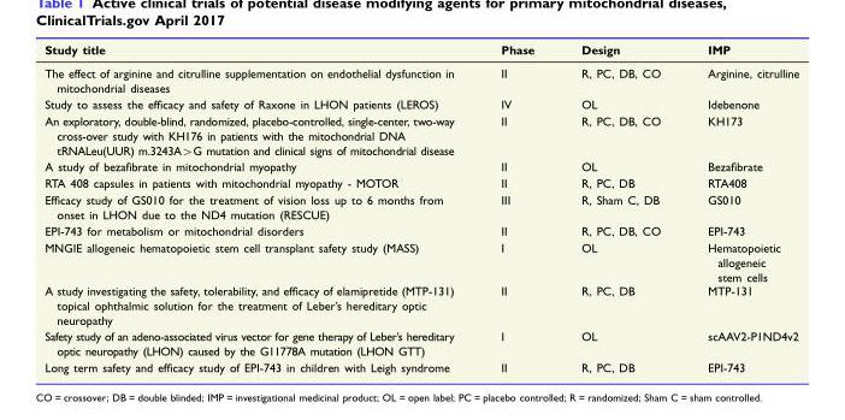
<table><thead><tr><td>Study title</td><td>Phase</td><td>Design</td><td>IMP</td></tr></thead><tbody><tr><td>The effect of arginine and citrulline supplementation on endothelial dysfunction in mitochondrial diseases</td><td>II</td><td>R, PC, DB, CO</td><td>Arginine, citrulline</td></tr><tr><td>Study to assess the efficacy and safety of Raxone in LHON patients (LEROS)</td><td>IV</td><td>OL</td><td>Idebenone</td></tr><tr><td>An exploratory, double-blind, randomized, placebo-controlled, single-center, two-way cross-over study with KH176 in patients with the mitochondrial DNA tRNALeu(UUR) m.3243A&gt;G mutation and clinical signs of mitochondrial disease</td><td>II</td><td>R, PC, DB, CO</td><td>KH173</td></tr><tr><td>A study of bezafibrate in mitochondrial myopathy</td><td>II</td><td>OL</td><td>Bezafibrate</td></tr><tr><td>RTA 408 capsules in patients with mitochondrial myopathy - MOTOR</td><td>II</td><td>R, PC, DB</td><td>RTA408</td></tr><tr><td>Efficacy study of GS010 for the treatment of vision loss up to 6 months from onset in LHON due to the ND4 mutation (RESCUE)</td><td>III</td><td>R, Sham C, DB</td><td>GS010</td></tr><tr><td>EPI-743 for metabolism or mitochondrial disorders</td><td>II</td><td>R, PC, DB, CO</td><td>EPI-743</td></tr><tr><td>MNGIE allogeneic hematopoietic stem cell transplant safety study (MASS)</td><td>I</td><td>OL</td><td>Hematopoietic allogeneic stem cells</td></tr><tr><td>A study investigating the safety, tolerability, and efficacy of elamipretide (MTP-131) topical ophthalmic solution for the treatment of Leber’s hereditary optic neuropathy</td><td>II</td><td>R, PC, DB</td><td>MTP-131</td></tr><tr><td>Safety study of an adeno-associated virus vector for gene therapy of Leber’s hereditary optic neuropathy (LHON) caused by the G11778A mutation (LHON GTT)</td><td>I</td><td>OL</td><td>scAAV2-P1ND4v2</td></tr><tr><td>Long term safety and efficacy study of EPI-743 in children with Leigh syndrome</td><td>II</td><td>R, PC, DB</td><td>EPI-743</td></tr></tbody></table>